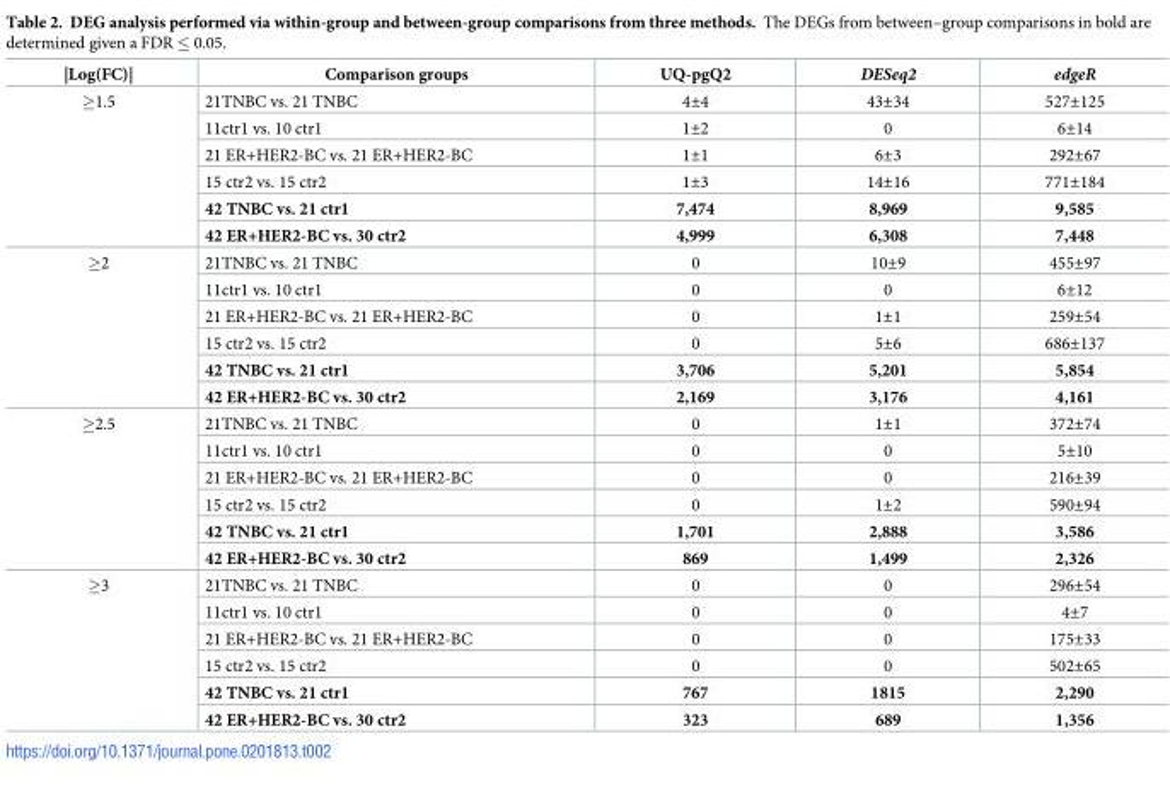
<table><thead><tr><td>|Log(FC)|</td><td>Comparison groups</td><td>UQ-pgQ2</td><td>DESeq2</td><td>edgeR</td></tr></thead><tbody><tr><td rowspan="6">≥1.5</td><td>21TNBC vs. 21 TNBC</td><td>4±4</td><td>43±34</td><td>527±125</td></tr><tr><td>11ctr1 vs. 10 ctr1</td><td>1±2</td><td>0</td><td>6±14</td></tr><tr><td>21 ER+HER2-BC vs. 21 ER+HER2-BC</td><td>1±1</td><td>6±3</td><td>292±67</td></tr><tr><td>15 ctr2 vs. 15 ctr2</td><td>1±3</td><td>14±16</td><td>771±184</td></tr><tr><td>42 TNBC vs. 21 ctr1</td><td>7,474</td><td>8,969</td><td>9,585</td></tr><tr><td>42 ER+HER2-BC vs. 30 ctr2</td><td>4,999</td><td>6,308</td><td>7,448</td></tr><tr><td rowspan="6">≥2</td><td>21TNBC vs. 21 TNBC</td><td>0</td><td>10±9</td><td>455±97</td></tr><tr><td>11ctr1 vs. 10 ctr1</td><td>0</td><td>0</td><td>6±12</td></tr><tr><td>21 ER+HER2-BC vs. 21 ER+HER2-BC</td><td>0</td><td>1±1</td><td>259±54</td></tr><tr><td>15 ctr2 vs. 15 ctr2</td><td>0</td><td>5±6</td><td>686±137</td></tr><tr><td>42 TNBC vs. 21 ctr1</td><td>3,706</td><td>5,201</td><td>5,854</td></tr><tr><td>42 ER+HER2-BC vs. 30 ctr2</td><td>2,169</td><td>3,176</td><td>4,161</td></tr><tr><td rowspan="6">≥2.5</td><td>21TNBC vs. 21 TNBC</td><td>0</td><td>1±1</td><td>372±74</td></tr><tr><td>11ctr1 vs. 10 ctr1</td><td>0</td><td>0</td><td>5±10</td></tr><tr><td>21 ER+HER2-BC vs. 21 ER+HER2-BC</td><td>0</td><td>0</td><td>216±39</td></tr><tr><td>15 ctr2 vs. 15 ctr2</td><td>0</td><td>1±2</td><td>590±94</td></tr><tr><td>42 TNBC vs. 21 ctr1</td><td>1,701</td><td>2,888</td><td>3,586</td></tr><tr><td>42 ER+HER2-BC vs. 30 ctr2</td><td>869</td><td>1,499</td><td>2,326</td></tr><tr><td rowspan="6">≥3</td><td>21TNBC vs. 21 TNBC</td><td>0</td><td>0</td><td>296±54</td></tr><tr><td>11ctr1 vs. 10 ctr1</td><td>0</td><td>0</td><td>4±7</td></tr><tr><td>21 ER+HER2-BC vs. 21 ER+HER2-BC</td><td>0</td><td>0</td><td>175±33</td></tr><tr><td>15 ctr2 vs. 15 ctr2</td><td>0</td><td>0</td><td>502±65</td></tr><tr><td>42 TNBC vs. 21 ctr1</td><td>767</td><td>1815</td><td>2,290</td></tr><tr><td>42 ER+HER2-BC vs. 30 ctr2</td><td>323</td><td>689</td><td>1,356</td></tr></tbody></table>